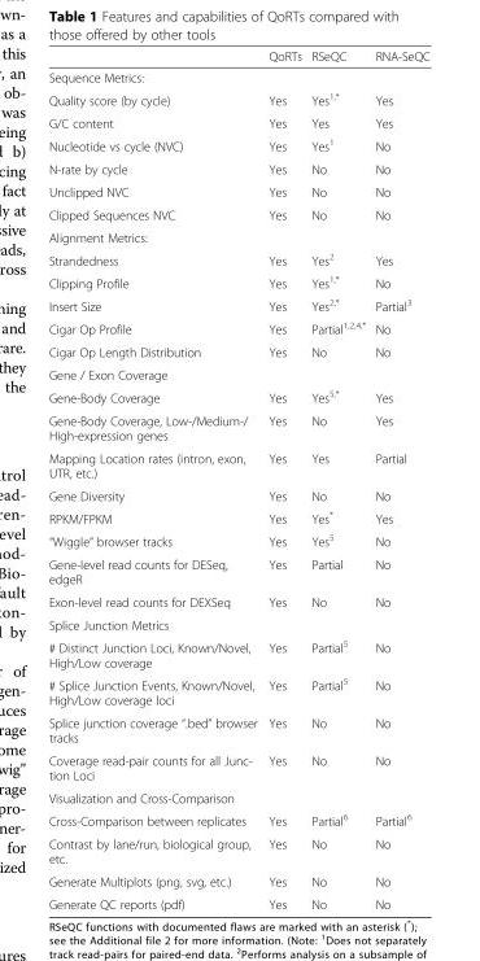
<table><thead><tr><td></td><td>QoRTs</td><td>RSeQC</td><td>RNA-SeQC</td></tr></thead><tbody><tr><td colspan="4">Sequence Metrics:</td></tr><tr><td>Quality score (by cycle)</td><td>Yes</td><td>Yes<sup>1,*</sup></td><td>Yes</td></tr><tr><td>G/C content</td><td>Yes</td><td>Yes</td><td>Yes</td></tr><tr><td>Nucleotide vs cycle (NVC)</td><td>Yes</td><td>Yes<sup>1</sup></td><td>No</td></tr><tr><td>N-rate by cycle</td><td>Yes</td><td>No</td><td>No</td></tr><tr><td>Unclipped NVC</td><td>Yes</td><td>No</td><td>No</td></tr><tr><td>Clipped Sequences NVC</td><td>Yes</td><td>No</td><td>No</td></tr><tr><td colspan="4">Alignment Metrics:</td></tr><tr><td>Strandedness</td><td>Yes</td><td>Yes<sup>2</sup></td><td>Yes</td></tr><tr><td>Clipping Profile</td><td>Yes</td><td>Yes<sup>1,*</sup></td><td>No</td></tr><tr><td>Insert Size</td><td>Yes</td><td>Yes<sup>2,*</sup></td><td>Partial<sup>3</sup></td></tr><tr><td>Cigar Op Profile</td><td>Yes</td><td>Partial<sup>1,2,4,*</sup></td><td>No</td></tr><tr><td>Cigar Op Length Distribution</td><td>Yes</td><td>No</td><td>No</td></tr><tr><td colspan="4">Gene / Exon Coverage</td></tr><tr><td>Gene-Body Coverage</td><td>Yes</td><td>Yes<sup>5,*</sup></td><td>Yes</td></tr><tr><td>Gene-Body Coverage, Low-/Medium-/ High-expression genes</td><td>Yes</td><td>No</td><td>Yes</td></tr><tr><td>Mapping Location rates (intron, exon, UTR, etc.)</td><td>Yes</td><td>Yes</td><td>Partial</td></tr><tr><td>Gene Diversity</td><td>Yes</td><td>No</td><td>No</td></tr><tr><td>RPKM/FPKM</td><td>Yes</td><td>Yes*</td><td>Yes</td></tr><tr><td>“Wiggle” browser tracks</td><td>Yes</td><td>Yes<sup>5</sup></td><td>No</td></tr><tr><td>Gene-level read counts for DESeq, edgeR</td><td>Yes</td><td>Partial</td><td>No</td></tr><tr><td>Exon-level read counts for DEXSeq</td><td>Yes</td><td>No</td><td>No</td></tr><tr><td colspan="4">Splice Junction Metrics</td></tr><tr><td># Distinct Junction Loci, Known/Novel, High/Low coverage</td><td>Yes</td><td>Partial<sup>5</sup></td><td>No</td></tr><tr><td># Splice Junction Events, Known/Novel, High/Low coverage loci</td><td>Yes</td><td>Partial<sup>5</sup></td><td>No</td></tr><tr><td>Splice junction coverage “.bed” browser tracks</td><td>Yes</td><td>No</td><td>No</td></tr><tr><td>Coverage read-pair counts for all Junc- tion Loci</td><td>Yes</td><td>No</td><td>No</td></tr><tr><td colspan="4">Visualization and Cross-Comparison</td></tr><tr><td>Cross-Comparison between replicates</td><td>Yes</td><td>Partial<sup>6</sup></td><td>Partial<sup>6</sup></td></tr><tr><td>Contrast by lane/run, biological group, etc.</td><td>Yes</td><td>No</td><td>No</td></tr><tr><td>Generate Multiplots (png, svg, etc.)</td><td>Yes</td><td>No</td><td>No</td></tr><tr><td>Generate QC reports (pdf)</td><td>Yes</td><td>No</td><td>No</td></tr></tbody></table>